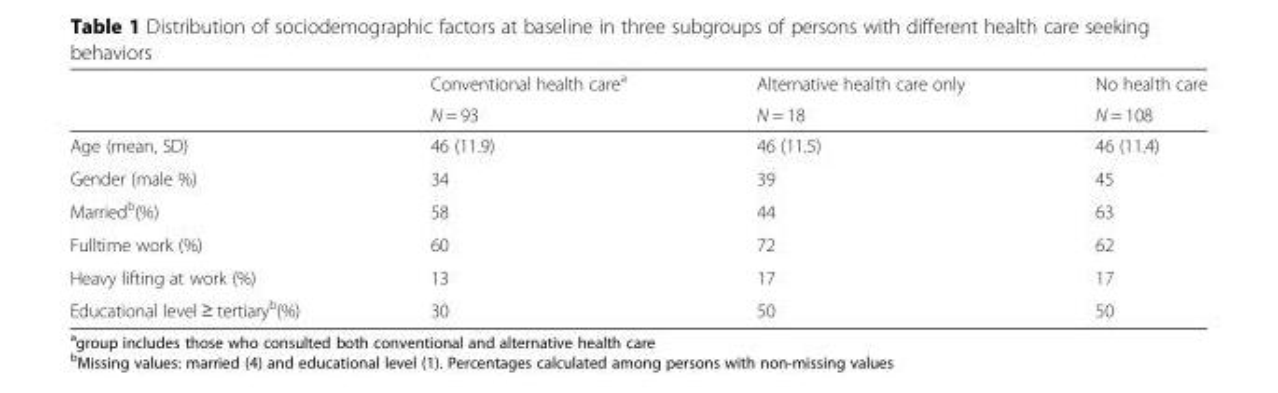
<table><thead><tr><td rowspan="2"></td><td rowspan="2">Conventional health care<sup>a</sup> N = 93</td><td rowspan="2">Alternative health care only N = 18</td><td rowspan="2">No health care N = 108</td></tr><tr></tr></thead><tbody><tr><td>Age (mean, SD)</td><td>46 (11.9)</td><td>46 (11.5)</td><td>46 (11.4)</td></tr><tr><td>Gender (male %)</td><td>34</td><td>39</td><td>45</td></tr><tr><td>Married<sup>b</sup>(%)</td><td>58</td><td>44</td><td>63</td></tr><tr><td>Fulltime work (%)</td><td>60</td><td>72</td><td>62</td></tr><tr><td>Heavy lifting at work (%)</td><td>13</td><td>17</td><td>17</td></tr><tr><td>Educational level ≥ tertiary<sup>b</sup>(%)</td><td>30</td><td>50</td><td>50</td></tr></tbody></table>